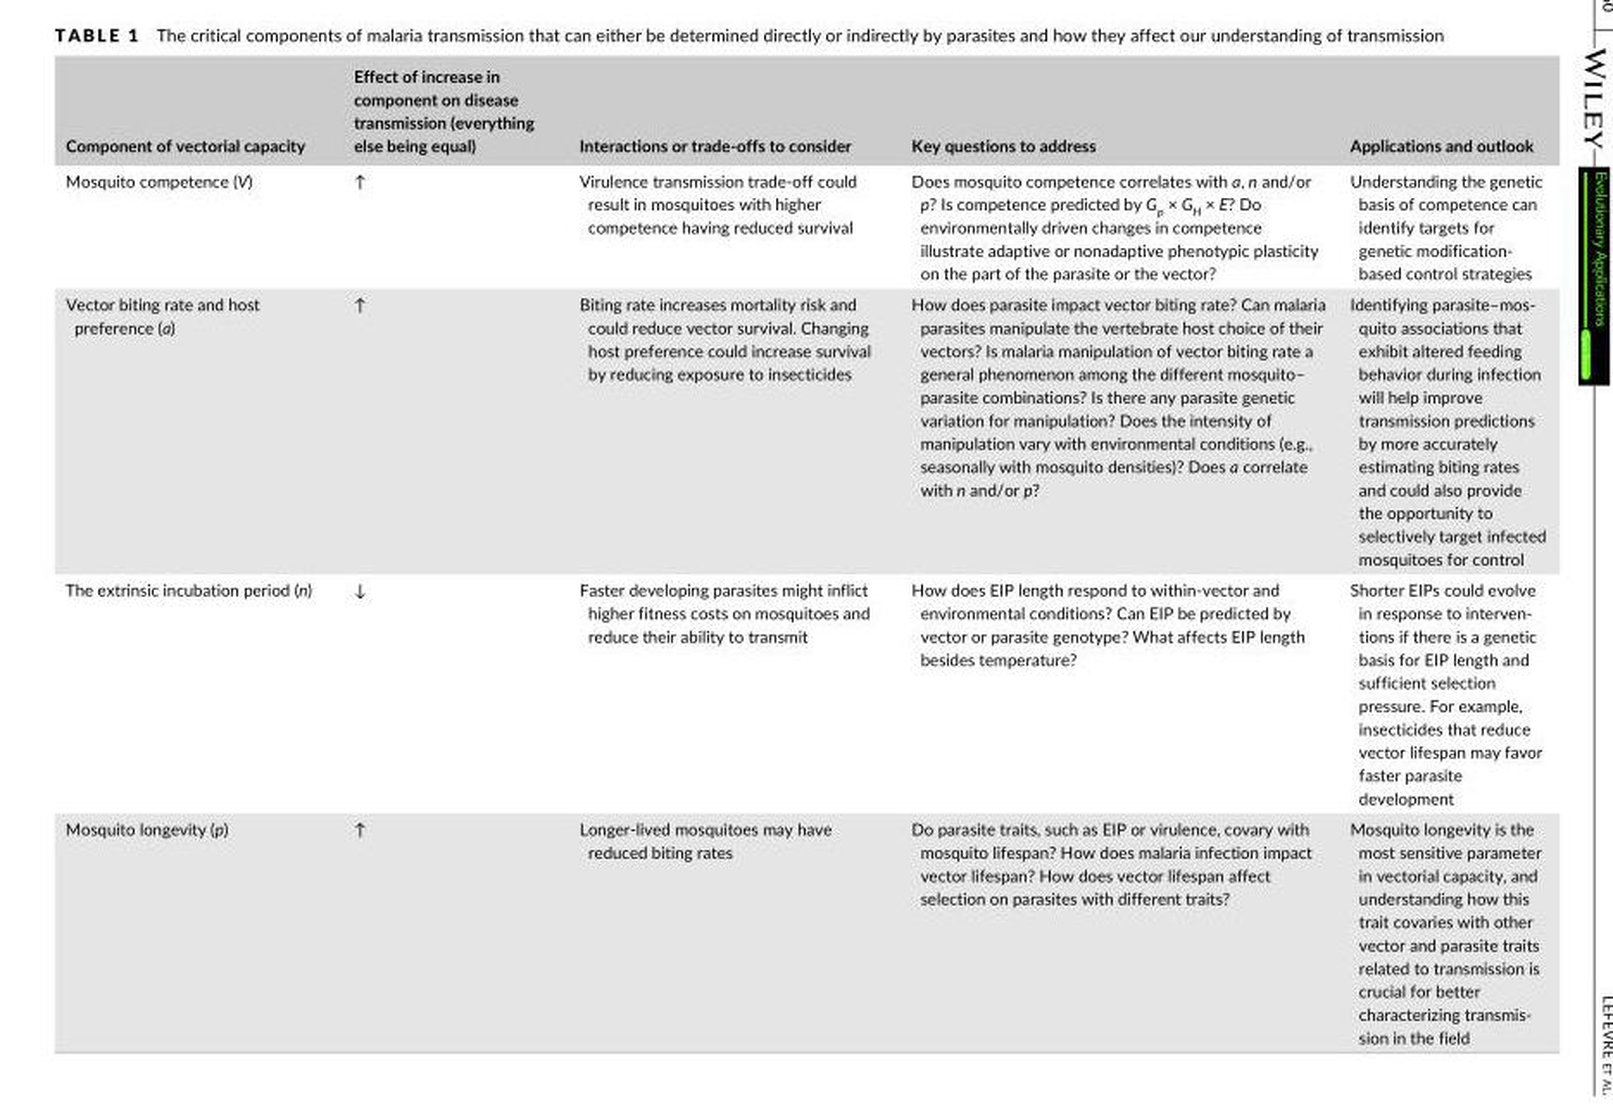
<table><thead><tr><td>Component of vectorial capacity</td><td>Effect of increase in component on disease transmission (everything else being equal)</td><td>Interactions or trade- offs to consider</td><td>Key questions to address</td><td>Applications and outlook</td></tr></thead><tbody><tr><td>Mosquito competence (V)</td><td>↑</td><td>Virulence transmission trade- off could result in mosquitoes with higher competence having reduced survival</td><td>Does mosquito competence correlates with a, n and/or p? Is competence predicted by G<sub>p</sub> × G<sub>H</sub> × E? Do environmentally driven changes in competence illustrate adaptive or nonadaptive phenotypic plasticity on the part of the parasite or the vector?</td><td>Understanding the genetic basis of competence can identify targets for genetic modification- based control strategies</td></tr><tr><td>Vector biting rate and host preference (a)</td><td>↑</td><td>Biting rate increases mortality risk and could reduce vector survival. Changing host preference could increase survival by reducing exposure to insecticides</td><td>How does parasite impact vector biting rate? Can malaria parasites manipulate the vertebrate host choice of their vectors? Is malaria manipulation of vector biting rate a general phenomenon among the different mosquito– parasite combinations? Is there any parasite genetic variation for manipulation? Does the intensity of manipulation vary with environmental conditions (e.g., seasonally with mosquito densities)? Does a correlate with n and/or p?</td><td>Identifying parasite–mos- quito associations that exhibit altered feeding behavior during infection will help improve transmission predictions by more accurately estimating biting rates and could also provide the opportunity to selectively target infected mosquitoes for control</td></tr><tr><td>The extrinsic incubation period (n)</td><td>↓</td><td>Faster developing parasites might inflict higher fitness costs on mosquitoes and reduce their ability to transmit</td><td>How does EIP length respond to within- vector and environmental conditions? Can EIP be predicted by vector or parasite genotype? What affects EIP length besides temperature?</td><td>Shorter EIPs could evolve in response to interven- tions if there is a genetic basis for EIP length and sufficient selection pressure. For example, insecticides that reduce vector lifespan may favor faster parasite development</td></tr><tr><td>Mosquito longevity (p)</td><td>↑</td><td>Longer- lived mosquitoes may have reduced biting rates</td><td>Do parasite traits, such as EIP or virulence, covary with mosquito lifespan? How does malaria infection impact vector lifespan? How does vector lifespan affect selection on parasites with different traits?</td><td>Mosquito longevity is the most sensitive parameter in vectorial capacity, and understanding how this trait covaries with other vector and parasite traits related to transmission is crucial for better characterizing transmis- sion in the field</td></tr></tbody></table>